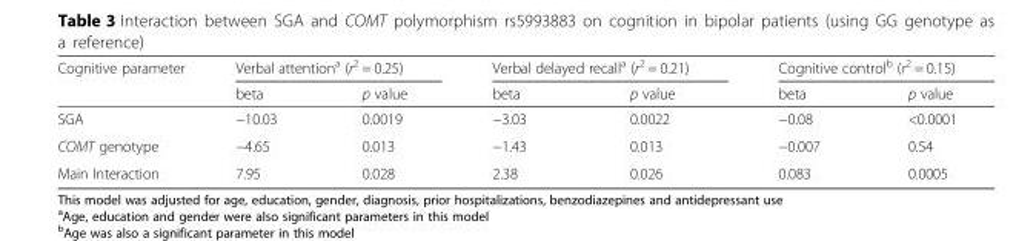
<table><thead><tr><td rowspan="2">Cognitive parameter</td><td colspan="2">Verbal attention<sup>a</sup> (r<sup>2</sup> = 0.25)</td><td colspan="2">Verbal delayed recall<sup>a</sup> (r<sup>2</sup> = 0.21)</td><td colspan="2">Cognitive control<sup>b</sup> (r<sup>2</sup> = 0.15)</td></tr><tr><td>beta</td><td>p value</td><td>beta</td><td>p value</td><td>beta</td><td>p value</td></tr></thead><tbody><tr><td>SGA</td><td>−10.03</td><td>0.0019</td><td>−3.03</td><td>0.0022</td><td>−0.08</td><td>&lt;0.0001</td></tr><tr><td>COMT genotype</td><td>−4.65</td><td>0.013</td><td>−1.43</td><td>0.013</td><td>−0.007</td><td>0.54</td></tr><tr><td>Main Interaction</td><td>7.95</td><td>0.028</td><td>2.38</td><td>0.026</td><td>0.083</td><td>0.0005</td></tr></tbody></table>